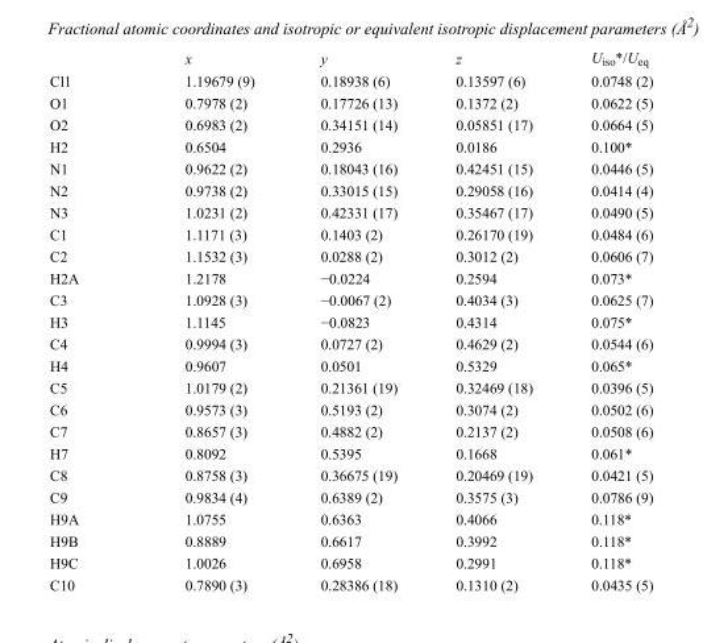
<table><thead><tr><td></td><td>x</td><td>y</td><td>z</td><td>U<sub>iso</sub>*/U<sub>eq</sub></td></tr></thead><tbody><tr><td>Cl1</td><td>1.19679 (9)</td><td>0.18938 (6)</td><td>0.13597 (6)</td><td>0.0748 (2)</td></tr><tr><td>O1</td><td>0.7978 (2)</td><td>0.17726 (13)</td><td>0.1372 (2)</td><td>0.0622 (5)</td></tr><tr><td>O2</td><td>0.6983 (2)</td><td>0.34151 (14)</td><td>0.05851 (17)</td><td>0.0664 (5)</td></tr><tr><td>H2</td><td>0.6504</td><td>0.2936</td><td>0.0186</td><td>0.100*</td></tr><tr><td>N1</td><td>0.9622 (2)</td><td>0.18043 (16)</td><td>0.42451 (15)</td><td>0.0446 (5)</td></tr><tr><td>N2</td><td>0.9738 (2)</td><td>0.33015 (15)</td><td>0.29058 (16)</td><td>0.0414 (4)</td></tr><tr><td>N3</td><td>1.0231 (2)</td><td>0.42331 (17)</td><td>0.35467 (17)</td><td>0.0490 (5)</td></tr><tr><td>C1</td><td>1.1171 (3)</td><td>0.1403 (2)</td><td>0.26170 (19)</td><td>0.0484 (6)</td></tr><tr><td>C2</td><td>1.1532 (3)</td><td>0.0288 (2)</td><td>0.3012 (2)</td><td>0.0606 (7)</td></tr><tr><td>H2A</td><td>1.2178</td><td>−0.0224</td><td>0.2594</td><td>0.073*</td></tr><tr><td>C3</td><td>1.0928 (3)</td><td>−0.0067 (2)</td><td>0.4034 (3)</td><td>0.0625 (7)</td></tr><tr><td>H3</td><td>1.1145</td><td>−0.0823</td><td>0.4314</td><td>0.075*</td></tr><tr><td>C4</td><td>0.9994 (3)</td><td>0.0727 (2)</td><td>0.4629 (2)</td><td>0.0544 (6)</td></tr><tr><td>H4</td><td>0.9607</td><td>0.0501</td><td>0.5329</td><td>0.065*</td></tr><tr><td>C5</td><td>1.0179 (2)</td><td>0.21361 (19)</td><td>0.32469 (18)</td><td>0.0396 (5)</td></tr><tr><td>C6</td><td>0.9573 (3)</td><td>0.5193 (2)</td><td>0.3074 (2)</td><td>0.0502 (6)</td></tr><tr><td>C7</td><td>0.8657 (3)</td><td>0.4882 (2)</td><td>0.2137 (2)</td><td>0.0508 (6)</td></tr><tr><td>H7</td><td>0.8092</td><td>0.5395</td><td>0.1668</td><td>0.061*</td></tr><tr><td>C8</td><td>0.8758 (3)</td><td>0.36675 (19)</td><td>0.20469 (19)</td><td>0.0421 (5)</td></tr><tr><td>C9</td><td>0.9834 (4)</td><td>0.6389 (2)</td><td>0.3575 (3)</td><td>0.0786 (9)</td></tr><tr><td>H9A</td><td>1.0755</td><td>0.6363</td><td>0.4066</td><td>0.118*</td></tr><tr><td>H9B</td><td>0.8889</td><td>0.6617</td><td>0.3992</td><td>0.118*</td></tr><tr><td>H9C</td><td>1.0026</td><td>0.6958</td><td>0.2991</td><td>0.118*</td></tr><tr><td>C10</td><td>0.7890 (3)</td><td>0.28386 (18)</td><td>0.1310 (2)</td><td>0.0435 (5)</td></tr></tbody></table>